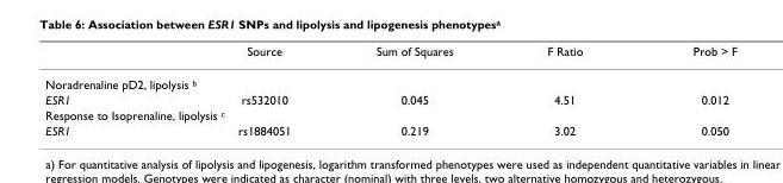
<table><thead><tr><td></td><td>Source</td><td>Sum of Squares</td><td>F Ratio</td><td>Prob &gt; F</td></tr></thead><tbody><tr><td colspan="5">Noradrenaline pD2, lipolysis <sup>b</sup></td></tr><tr><td>ESR1</td><td>rs532010</td><td>0.045</td><td>4.51</td><td>0.012</td></tr><tr><td colspan="5">Response to Isoprenaline, lipolysis <sup>c</sup></td></tr><tr><td>ESR1</td><td>rs1884051</td><td>0.219</td><td>3.02</td><td>0.050</td></tr></tbody></table>